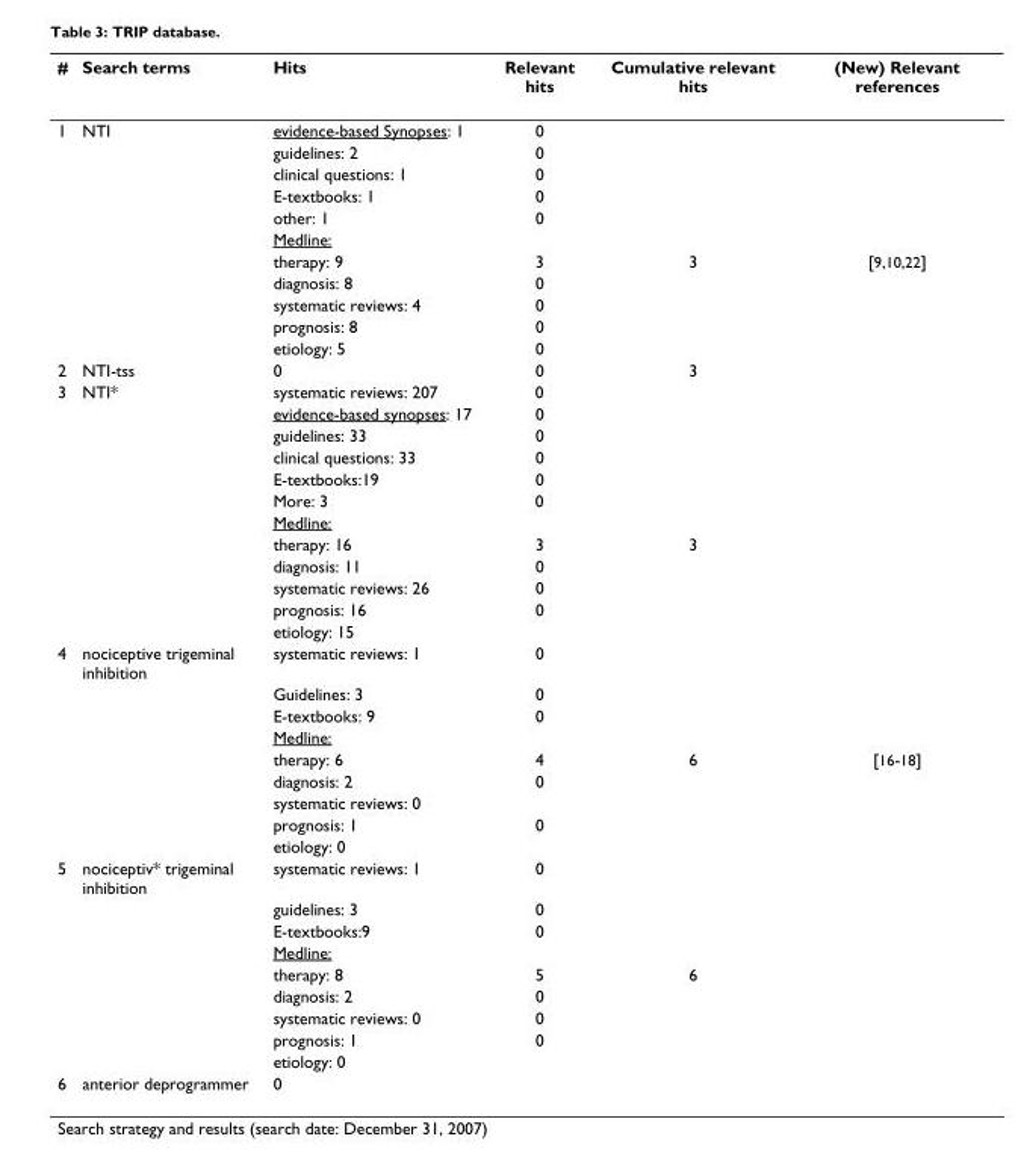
<table><thead><tr><td>#</td><td>Search terms</td><td>Hits</td><td>Relevant hits</td><td>Cumulative relevant hits</td><td>(New) Relevant references</td></tr></thead><tbody><tr><td rowspan="11">1</td><td>NTI</td><td>evidence-based Synopses: 1</td><td>0</td><td></td><td></td></tr><tr><td></td><td>guidelines: 2</td><td>0</td><td></td><td></td></tr><tr><td></td><td>clinical questions: 1</td><td>0</td><td></td><td></td></tr><tr><td></td><td>E-textbooks: 1</td><td>0</td><td></td><td></td></tr><tr><td></td><td>other: 1</td><td>0</td><td></td><td></td></tr><tr><td></td><td>Medline:</td><td></td><td></td><td></td></tr><tr><td></td><td>therapy: 9</td><td>3</td><td>3</td><td>[9,10,22]</td></tr><tr><td></td><td>diagnosis: 8</td><td>0</td><td></td><td></td></tr><tr><td></td><td>systematic reviews: 4</td><td>0</td><td></td><td></td></tr><tr><td></td><td>prognosis: 8</td><td>0</td><td></td><td></td></tr><tr><td></td><td>etiology: 5</td><td>0</td><td></td><td></td></tr><tr><td>2</td><td>NTI-tss</td><td>0</td><td>0</td><td>3</td><td></td></tr><tr><td rowspan="12">3</td><td>NTI*</td><td>systematic reviews: 207</td><td>0</td><td></td><td></td></tr><tr><td></td><td>evidence-based synopses: 17</td><td>0</td><td></td><td></td></tr><tr><td></td><td>guidelines: 33</td><td>0</td><td></td><td></td></tr><tr><td></td><td>clinical questions: 33</td><td>0</td><td></td><td></td></tr><tr><td></td><td>E-textbooks:19</td><td>0</td><td></td><td></td></tr><tr><td></td><td>More: 3</td><td>0</td><td></td><td></td></tr><tr><td></td><td>Medline:</td><td></td><td></td><td></td></tr><tr><td></td><td>therapy: 16</td><td>3</td><td>3</td><td></td></tr><tr><td></td><td>diagnosis: 11</td><td>0</td><td></td><td></td></tr><tr><td></td><td>systematic reviews: 26</td><td>0</td><td></td><td></td></tr><tr><td></td><td>prognosis: 16</td><td>0</td><td></td><td></td></tr><tr><td></td><td>etiology: 15</td><td></td><td></td><td></td></tr><tr><td rowspan="9">4</td><td>nociceptive trigeminal inhibition</td><td>systematic reviews: 1</td><td>0</td><td></td><td></td></tr><tr><td></td><td>Guidelines: 3</td><td>0</td><td></td><td></td></tr><tr><td></td><td>E-textbooks: 9</td><td>0</td><td></td><td></td></tr><tr><td></td><td>Medline:</td><td></td><td></td><td></td></tr><tr><td></td><td>therapy: 6</td><td>4</td><td>6</td><td>[16-18]</td></tr><tr><td></td><td>diagnosis: 2</td><td>0</td><td></td><td></td></tr><tr><td></td><td>systematic reviews: 0</td><td></td><td></td><td></td></tr><tr><td></td><td>prognosis: 1</td><td>0</td><td></td><td></td></tr><tr><td></td><td>etiology: 0</td><td></td><td></td><td></td></tr><tr><td rowspan="9">5</td><td>nociceptiv* trigeminal inhibition</td><td>systematic reviews: 1</td><td>0</td><td></td><td></td></tr><tr><td></td><td>guidelines: 3</td><td>0</td><td></td><td></td></tr><tr><td></td><td>E-textbooks:9</td><td>0</td><td></td><td></td></tr><tr><td></td><td>Medline:</td><td></td><td></td><td></td></tr><tr><td></td><td>therapy: 8</td><td>5</td><td>6</td><td></td></tr><tr><td></td><td>diagnosis: 2</td><td>0</td><td></td><td></td></tr><tr><td></td><td>systematic reviews: 0</td><td>0</td><td></td><td></td></tr><tr><td></td><td>prognosis: 1</td><td>0</td><td></td><td></td></tr><tr><td></td><td>etiology: 0</td><td></td><td></td><td></td></tr><tr><td>6</td><td>anterior deprogrammer</td><td>0</td><td></td><td></td><td></td></tr></tbody></table>